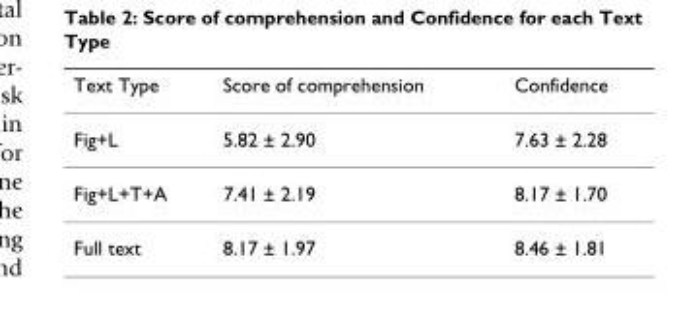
<table><thead><tr><td>Text Type</td><td>Score of comprehension</td><td>Confidence</td></tr></thead><tbody><tr><td>Fig+L</td><td>5.82 ± 2.90</td><td>7.63 ± 2.28</td></tr><tr><td>Fig+L+T+A</td><td>7.41 ± 2.19</td><td>8.17 ± 1.70</td></tr><tr><td>Full text</td><td>8.17 ± 1.97</td><td>8.46 ± 1.81</td></tr></tbody></table>